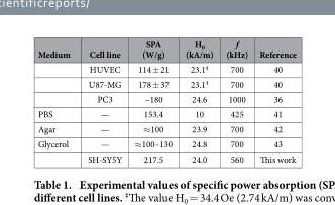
<table><thead><tr><td>Medium</td><td>Cell line</td><td>SPA (W/g)</td><td>H<sub>0</sub> (kA/m)</td><td>f (kHz)</td><td>Reference</td></tr></thead><tbody><tr><td></td><td>HUVEC</td><td>114 ± 21</td><td>23.1‡</td><td>700</td><td>40</td></tr><tr><td></td><td>U87-MG</td><td>178 ± 37</td><td>23.1‡</td><td>700</td><td>40</td></tr><tr><td></td><td>PC3</td><td>~180</td><td>24.6</td><td>1000</td><td>36</td></tr><tr><td>PBS</td><td>—</td><td>153.4</td><td>10</td><td>425</td><td>41</td></tr><tr><td>Agar</td><td>—</td><td>≈ 100</td><td>23.9</td><td>700</td><td>42</td></tr><tr><td rowspan="2">Glycerol</td><td>—</td><td>≈ 100–130</td><td>24.8</td><td>700</td><td>43</td></tr><tr><td>SH-SY5Y</td><td>217.5</td><td>24.0</td><td>560</td><td>This work</td></tr></tbody></table>